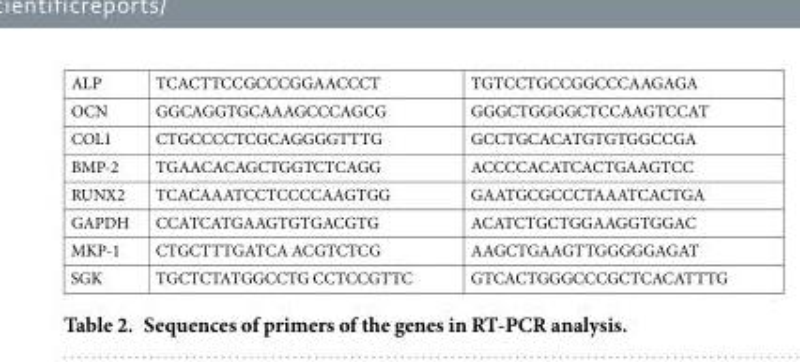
<table><tbody><tr><td>ALP</td><td>TCACTTCCGCCCGGAACCCT</td><td>TGTCCTGCCGGCCCAAGAGA</td></tr><tr><td>OCN</td><td>GGCAGGTGCAAAGCCCAGCG</td><td>GGGCTGGGGCTCCAAGTCCAT</td></tr><tr><td>COL1</td><td>CTGCCCCTCGCAGGGGTTTG</td><td>GCCTGCACATGTGTGGCCGA</td></tr><tr><td>BMP-2</td><td>TGAACACAGCTGGTCTCAGG</td><td>ACCCCACATCACTGAAGTCC</td></tr><tr><td>RUNX2</td><td>TCACAAATCCTCCCCAAGTGG</td><td>GAATGCGCCCTAAATCACTGA</td></tr><tr><td>GAPDH</td><td>CCATCATGAAGTGTGACGTG</td><td>ACATCTGCTGGAAGGTGGAC</td></tr><tr><td>MKP-1</td><td>CTGCTTTGATCA ACGTCTCG</td><td>AAGCTGAAGTTGGGGGAGAT</td></tr><tr><td>SGK</td><td>TGCTCTATGGCCTG CCTCCGTTC</td><td>GTCACTGGGCCCGCTCACATTTG</td></tr></tbody></table>